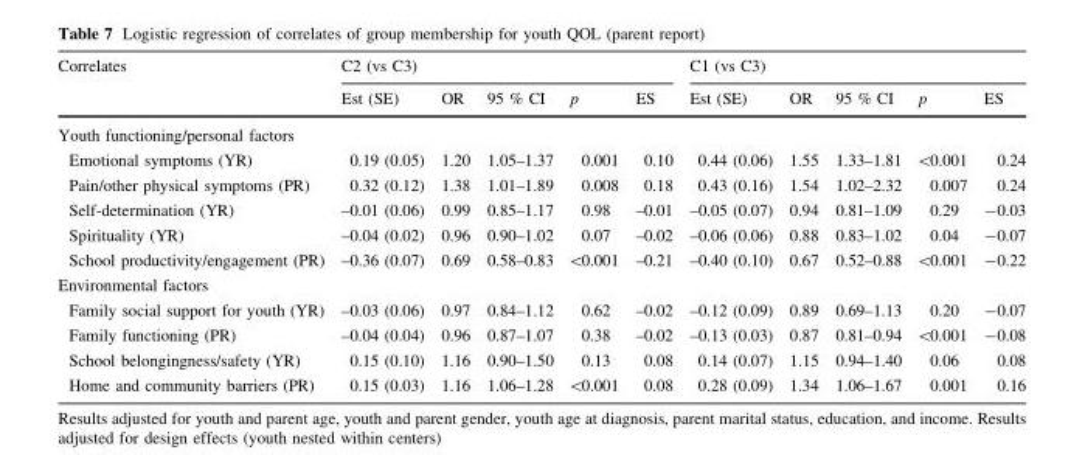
<table><thead><tr><td rowspan="2">Correlates</td><td colspan="5">C2 (vs C3)</td><td colspan="5">C1 (vs C3)</td></tr><tr><td>Est (SE)</td><td>OR</td><td>95 % CI</td><td>p</td><td>ES</td><td>Est (SE)</td><td>OR</td><td>95 % CI</td><td>p</td><td>ES</td></tr></thead><tbody><tr><td colspan="11">Youth functioning/personal factors</td></tr><tr><td>Emotional symptoms (YR)</td><td>0.19 (0.05)</td><td>1.20</td><td>1.05–1.37</td><td>0.001</td><td>0.10</td><td>0.44 (0.06)</td><td>1.55</td><td>1.33–1.81</td><td>&lt;0.001</td><td>0.24</td></tr><tr><td>Pain/other physical symptoms (PR)</td><td>0.32 (0.12)</td><td>1.38</td><td>1.01–1.89</td><td>0.008</td><td>0.18</td><td>0.43 (0.16)</td><td>1.54</td><td>1.02–2.32</td><td>0.007</td><td>0.24</td></tr><tr><td>Self-determination (YR)</td><td>–0.01 (0.06)</td><td>0.99</td><td>0.85–1.17</td><td>0.98</td><td>–0.01</td><td>–0.05 (0.07)</td><td>0.94</td><td>0.81–1.09</td><td>0.29</td><td>-0.03</td></tr><tr><td>Spirituality (YR)</td><td>–0.04 (0.02)</td><td>0.96</td><td>0.90–1.02</td><td>0.07</td><td>–0.02</td><td>–0.06 (0.06)</td><td>0.88</td><td>0.83–1.02</td><td>0.04</td><td>-0.07</td></tr><tr><td>School productivity/engagement (PR)</td><td>–0.36 (0.07)</td><td>0.69</td><td>0.58–0.83</td><td>&lt;0.001</td><td>–0.21</td><td>–0.40 (0.10)</td><td>0.67</td><td>0.52–0.88</td><td>&lt;0.001</td><td>-0.22</td></tr><tr><td colspan="11">Environmental factors</td></tr><tr><td>Family social support for youth (YR)</td><td>–0.03 (0.06)</td><td>0.97</td><td>0.84–1.12</td><td>0.62</td><td>–0.02</td><td>–0.12 (0.09)</td><td>0.89</td><td>0.69–1.13</td><td>0.20</td><td>-0.07</td></tr><tr><td>Family functioning (PR)</td><td>–0.04 (0.04)</td><td>0.96</td><td>0.87–1.07</td><td>0.38</td><td>–0.02</td><td>–0.13 (0.03)</td><td>0.87</td><td>0.81–0.94</td><td>&lt;0.001</td><td>-0.08</td></tr><tr><td>School belongingness/safety (YR)</td><td>0.15 (0.10)</td><td>1.16</td><td>0.90–1.50</td><td>0.13</td><td>0.08</td><td>0.14 (0.07)</td><td>1.15</td><td>0.94–1.40</td><td>0.06</td><td>0.08</td></tr><tr><td>Home and community barriers (PR)</td><td>0.15 (0.03)</td><td>1.16</td><td>1.06–1.28</td><td>&lt;0.001</td><td>0.08</td><td>0.28 (0.09)</td><td>1.34</td><td>1.06–1.67</td><td>0.001</td><td>0.16</td></tr></tbody></table>